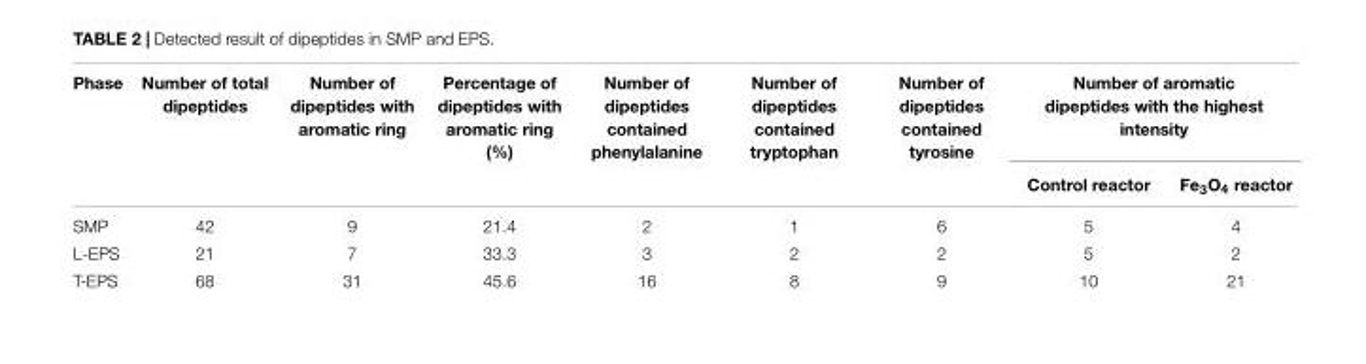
<table><thead><tr><td rowspan="2">Phase</td><td rowspan="2">Number of total dipeptides</td><td rowspan="2">Number of dipeptides with aromatic ring</td><td rowspan="2">Percentage of dipeptides with aromatic ring (%)</td><td rowspan="2">Number of dipeptides contained phenylalanine</td><td rowspan="2">Number of dipeptides contained tryptophan</td><td rowspan="2">Number of dipeptides contained tyrosine</td><td colspan="2">Number of aromatic dipeptides with the highest intensity</td></tr><tr><td>Control reactor</td><td>Fe<sub>3</sub>O<sub>4</sub> reactor</td></tr></thead><tbody><tr><td>SMP</td><td>42</td><td>9</td><td>21.4</td><td>2</td><td>1</td><td>6</td><td>5</td><td>4</td></tr><tr><td>L-EPS</td><td>21</td><td>7</td><td>33.3</td><td>3</td><td>2</td><td>2</td><td>5</td><td>2</td></tr><tr><td>T-EPS</td><td>68</td><td>31</td><td>45.6</td><td>16</td><td>8</td><td>9</td><td>10</td><td>21</td></tr></tbody></table>